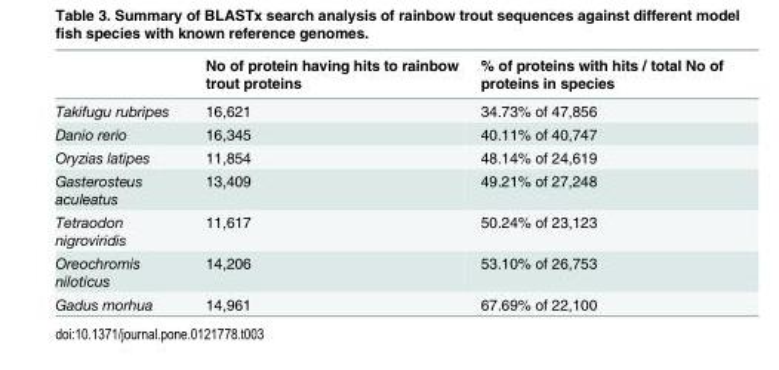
<table><thead><tr><td></td><td>No of protein having hits to rainbow trout proteins</td><td>% of proteins with hits / total No of proteins in species</td></tr></thead><tbody><tr><td>Takifugu rubripes</td><td>16,621</td><td>34.73% of 47,856</td></tr><tr><td>Danio rerio</td><td>16,345</td><td>40.11% of 40,747</td></tr><tr><td>Oryzias latipes</td><td>11,854</td><td>48.14% of 24,619</td></tr><tr><td>Gasterosteus aculeatus</td><td>13,409</td><td>49.21% of 27,248</td></tr><tr><td>Tetraodon nigroviridis</td><td>11,617</td><td>50.24% of 23,123</td></tr><tr><td>Oreochromis niloticus</td><td>14,206</td><td>53.10% of 26,753</td></tr><tr><td>Gadus morhua</td><td>14,961</td><td>67.69% of 22,100</td></tr></tbody></table>